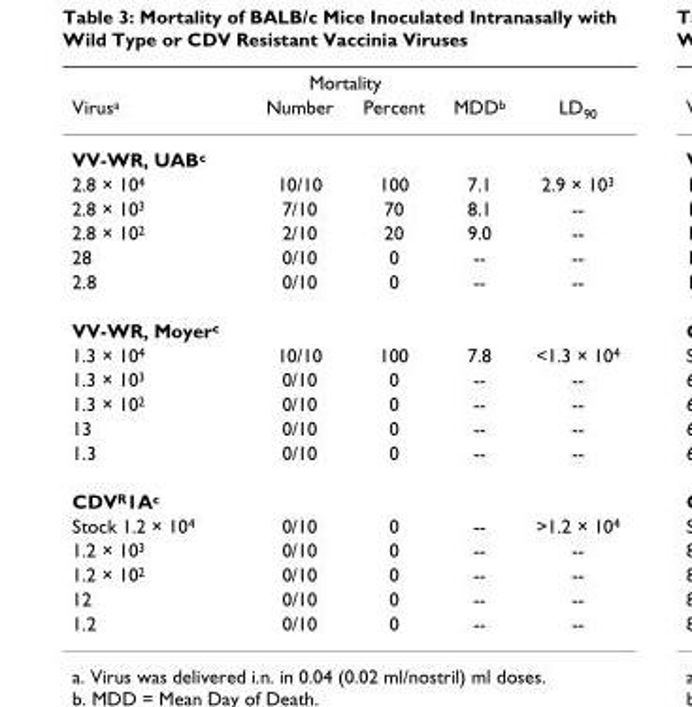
<table><thead><tr><td rowspan="2">Virus<sup>a</sup></td><td colspan="2">Mortality</td><td rowspan="2">MDD<sup>b</sup></td><td rowspan="2">LD<sub>90</sub></td></tr><tr><td>Number</td><td>Percent</td></tr></thead><tbody><tr><td colspan="5">VV-WR, UAB<sup>c</sup></td></tr><tr><td>2.8 × 10<sup>4</sup></td><td>10/10</td><td>100</td><td>7.1</td><td>2.9 × 10<sup>3</sup></td></tr><tr><td>2.8 × 10<sup>3</sup></td><td>7/10</td><td>70</td><td>8.1</td><td>--</td></tr><tr><td>2.8 × 10<sup>2</sup></td><td>2/10</td><td>20</td><td>9.0</td><td>--</td></tr><tr><td>28</td><td>0/10</td><td>0</td><td>--</td><td>--</td></tr><tr><td>2.8</td><td>0/10</td><td>0</td><td>--</td><td>--</td></tr><tr><td colspan="5">VV-WR, Moyer<sup>c</sup></td></tr><tr><td>1.3 × 10<sup>4</sup></td><td>10/10</td><td>100</td><td>7.8</td><td>&lt;1.3 × 10<sup>4</sup></td></tr><tr><td>1.3 × 10<sup>3</sup></td><td>0/10</td><td>0</td><td>--</td><td>--</td></tr><tr><td>1.3 × 10<sup>2</sup></td><td>0/10</td><td>0</td><td>--</td><td>--</td></tr><tr><td>13</td><td>0/10</td><td>0</td><td>--</td><td>--</td></tr><tr><td>1.3</td><td>0/10</td><td>0</td><td>--</td><td>--</td></tr><tr><td colspan="5">CDV<sup>R</sup>1A<sup>c</sup></td></tr><tr><td>Stock 1.2 × 10<sup>4</sup></td><td>0/10</td><td>0</td><td>--</td><td>&gt;1.2 × 10<sup>4</sup></td></tr><tr><td>1.2 × 10<sup>3</sup></td><td>0/10</td><td>0</td><td>--</td><td>--</td></tr><tr><td>1.2 × 10<sup>2</sup></td><td>0/10</td><td>0</td><td>--</td><td>--</td></tr><tr><td>12</td><td>0/10</td><td>0</td><td>--</td><td>--</td></tr><tr><td>1.2</td><td>0/10</td><td>0</td><td>--</td><td>--</td></tr></tbody></table>